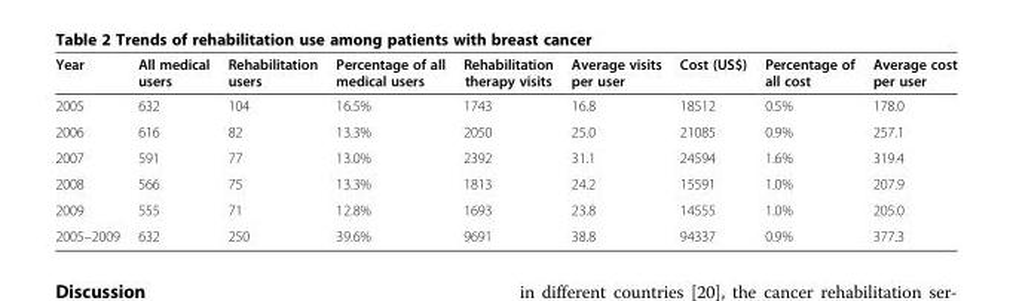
<table><thead><tr><td>Year</td><td>All medical users</td><td>Rehabilitation users</td><td>Percentage of all medical users</td><td>Rehabilitation therapy visits</td><td>Average visits per user</td><td>Cost (US$)</td><td>Percentage of all cost</td><td>Average cost per user</td></tr></thead><tbody><tr><td>2005</td><td>632</td><td>104</td><td>16.5%</td><td>1743</td><td>16.8</td><td>18512</td><td>0.5%</td><td>178.0</td></tr><tr><td>2006</td><td>616</td><td>82</td><td>13.3%</td><td>2050</td><td>25.0</td><td>21085</td><td>0.9%</td><td>257.1</td></tr><tr><td>2007</td><td>591</td><td>77</td><td>13.0%</td><td>2392</td><td>31.1</td><td>24594</td><td>1.6%</td><td>319.4</td></tr><tr><td>2008</td><td>566</td><td>75</td><td>13.3%</td><td>1813</td><td>24.2</td><td>15591</td><td>1.0%</td><td>207.9</td></tr><tr><td>2009</td><td>555</td><td>71</td><td>12.8%</td><td>1693</td><td>23.8</td><td>14555</td><td>1.0%</td><td>205.0</td></tr><tr><td>2005–2009</td><td>632</td><td>250</td><td>39.6%</td><td>9691</td><td>38.8</td><td>94337</td><td>0.9%</td><td>377.3</td></tr></tbody></table>